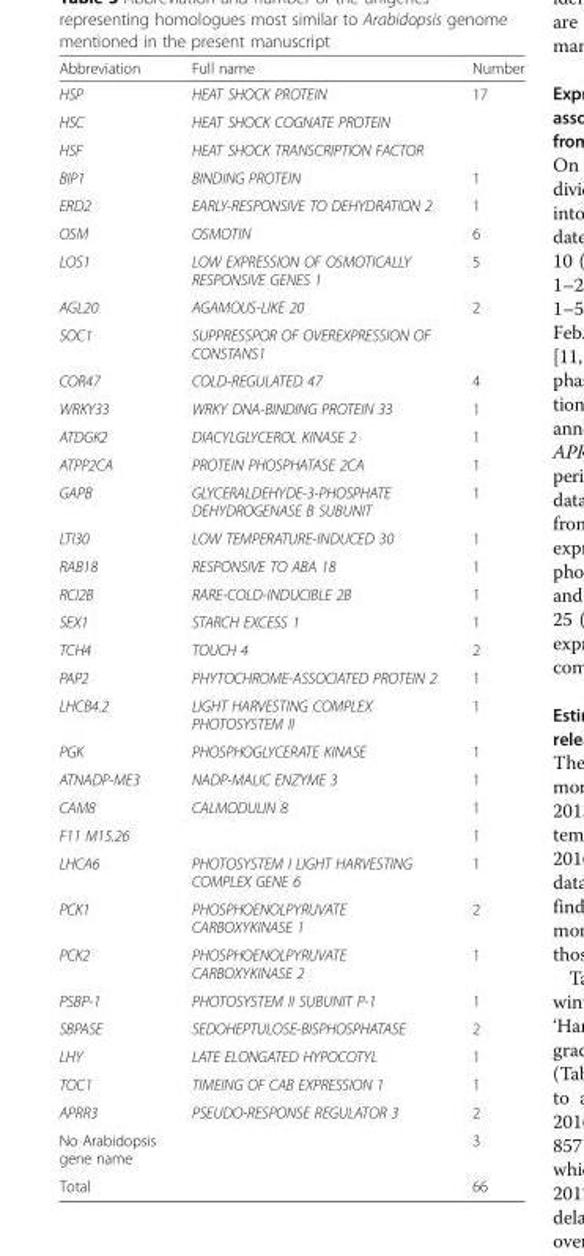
<table><thead><tr><td>Abbreviation</td><td>Full name</td><td>Number</td></tr></thead><tbody><tr><td>HSP</td><td>HEAT SHOCK PROTEIN</td><td rowspan="3">17</td></tr><tr><td>HSC</td><td>HEAT SHOCK COGNATE PROTEIN</td></tr><tr><td>HSF</td><td>HEAT SHOCK TRANSCRIPTION FACTOR</td></tr><tr><td>BIP1</td><td>BINDING PROTEIN</td><td>1</td></tr><tr><td>ERD2</td><td>EARLY-RESPONSIVE TO DEHYDRATION 2</td><td>1</td></tr><tr><td>OSM</td><td>OSMOTIN</td><td>6</td></tr><tr><td>LOS1</td><td>LOW EXPRESSION OF OSMOTICALLY RESPONSIVE GENES 1</td><td>5</td></tr><tr><td>AGL20</td><td>AGAMOUS-LIKE 20</td><td rowspan="2">2</td></tr><tr><td>SOC1</td><td>SUPPRESSPOR OF OVEREXPRESSION OF CONSTANS1</td></tr><tr><td>COR47</td><td>COLD-REGULATED 47</td><td>4</td></tr><tr><td>WRKY33</td><td>WRKY DNA-BINDING PROTEIN 33</td><td>1</td></tr><tr><td>ATDGK2</td><td>DIACYLGLYCEROL KINASE 2</td><td>1</td></tr><tr><td>ATPP2CA</td><td>PROTEIN PHOSPHATASE 2CA</td><td>1</td></tr><tr><td>GAPB</td><td>GLYCERALDEHYDE-3-PHOSPHATE DEHYDROGENASE B SUBUNIT</td><td>1</td></tr><tr><td>LTI30</td><td>LOW TEMPERATURE-INDUCED 30</td><td>1</td></tr><tr><td>RAB18</td><td>RESPONSIVE TO ABA 18</td><td>1</td></tr><tr><td>RCI2B</td><td>RARE-COLD-INDUCIBLE 2B</td><td>1</td></tr><tr><td>SEX1</td><td>STARCH EXCESS 1</td><td>1</td></tr><tr><td>TCH4</td><td>TOUCH 4</td><td>2</td></tr><tr><td>PAP2</td><td>PHYTOCHROME-ASSOCIATED PROTEIN 2</td><td>1</td></tr><tr><td>LHCB4.2</td><td>LIGHT HARVESTING COMPLEX PHOTOSYSTEM II</td><td>1</td></tr><tr><td>PGK</td><td>PHOSPHOGLYCERATE KINASE</td><td>1</td></tr><tr><td>ATNADP-ME3</td><td>NADP-MALIC ENZYME 3</td><td>1</td></tr><tr><td>CAM8</td><td>CALMODULIN 8</td><td>1</td></tr><tr><td>F11 M15.26</td><td></td><td>1</td></tr><tr><td>LHCA6</td><td>PHOTOSYSTEM I LIGHT HARVESTING COMPLEX GENE 6</td><td>1</td></tr><tr><td>PCK1</td><td>PHOSPHOENOLPYRUVATE CARBOXYKINASE 1</td><td>2</td></tr><tr><td>PCK2</td><td>PHOSPHOENOLPYRUVATE CARBOXYKINASE 2</td><td>1</td></tr><tr><td>PSBP-1</td><td>PHOTOSYSTEM II SUBUNIT P-1</td><td>1</td></tr><tr><td>SBPASE</td><td>SEDOHEPTULOSE-BISPHOSPHATASE</td><td>2</td></tr><tr><td>LHY</td><td>LATE ELONGATED HYPOCOTYL</td><td>1</td></tr><tr><td>TOC1</td><td>TIMEING OF CAB EXPRESSION 1</td><td>1</td></tr><tr><td>APRR3</td><td>PSEUDO-RESPONSE REGULATOR 3</td><td>2</td></tr><tr><td>No Arabidopsis gene name</td><td></td><td>3</td></tr><tr><td colspan="2">Total</td><td>66</td></tr></tbody></table>